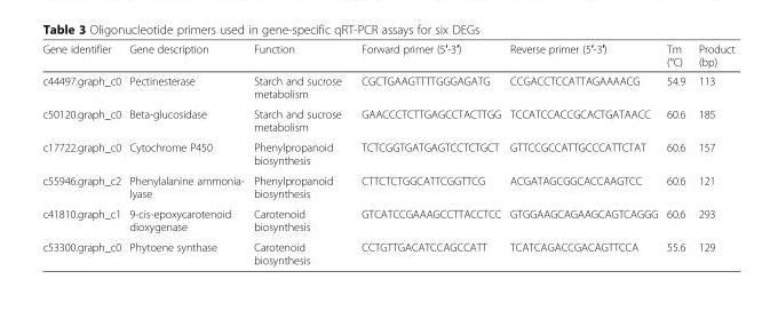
<table><thead><tr><td>Gene identifier</td><td>Gene description</td><td>Function</td><td>Forward primer (5′-3′)</td><td>Reverse primer (5′-3′)</td><td>Tm (°C)</td><td>Product (bp)</td></tr></thead><tbody><tr><td>c44497.graph_c0</td><td>Pectinesterase</td><td>Starch and sucrose metabolism</td><td>CGCTGAAGTTTTGGGAGATG</td><td>CCGACCTCCATTAGAAAACG</td><td>54.9</td><td>113</td></tr><tr><td>c50120.graph_c0</td><td>Beta-glucosidase</td><td>Starch and sucrose metabolism</td><td>GAACCCTCTTGAGCCTACTTGG</td><td>TCCATCCACCGCACTGATAACC</td><td>60.6</td><td>185</td></tr><tr><td>c17722.graph_c0</td><td>Cytochrome P450</td><td>Phenylpropanoid biosynthesis</td><td>TCTCGGTGATGAGTCCTCTGCT</td><td>GTTCCGCCATTGCCCATTCTAT</td><td>60.6</td><td>157</td></tr><tr><td>c55946.graph_c2</td><td>Phenylalanine ammonia- lyase</td><td>Phenylpropanoid biosynthesis</td><td>CTTCTCTGGCATTCGGTTCG</td><td>ACGATAGCGGCACCAAGTCC</td><td>60.6</td><td>121</td></tr><tr><td>c41810.graph_c1</td><td>9-cis-epoxycarotenoid dioxygenase</td><td>Carotenoid biosynthesis</td><td>GTCATCCGAAAGCCTTACCTCC</td><td>GTGGAAGCAGAAGCAGTCAGGG</td><td>60.6</td><td>293</td></tr><tr><td>c53300.graph_c0</td><td>Phytoene synthase</td><td>Carotenoid biosynthesis</td><td>CCTGTTGACATCCAGCCATT</td><td>TCATCAGACCGACAGTTCCA</td><td>55.6</td><td>129</td></tr></tbody></table>